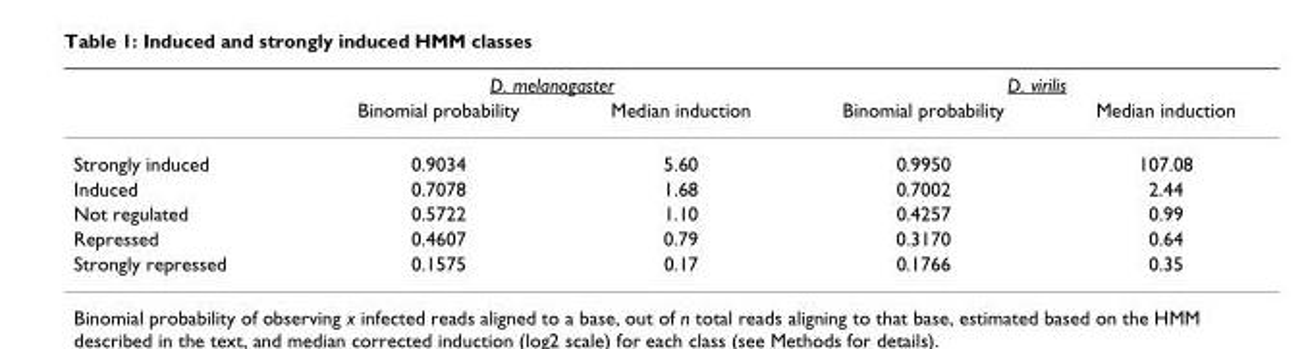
<table><thead><tr><td rowspan="2"></td><td colspan="2">D. melanogaster</td><td colspan="2">D. virilis</td></tr><tr><td>Binomial probability</td><td>Median induction</td><td>Binomial probability</td><td>Median induction</td></tr></thead><tbody><tr><td>Strongly induced</td><td>0.9034</td><td>5.60</td><td>0.9950</td><td>107.08</td></tr><tr><td>Induced</td><td>0.7078</td><td>1.68</td><td>0.7002</td><td>2.44</td></tr><tr><td>Not regulated</td><td>0.5722</td><td>1.10</td><td>0.4257</td><td>0.99</td></tr><tr><td>Repressed</td><td>0.4607</td><td>0.79</td><td>0.3170</td><td>0.64</td></tr><tr><td>Strongly repressed</td><td>0.1575</td><td>0.17</td><td>0.1766</td><td>0.35</td></tr></tbody></table>